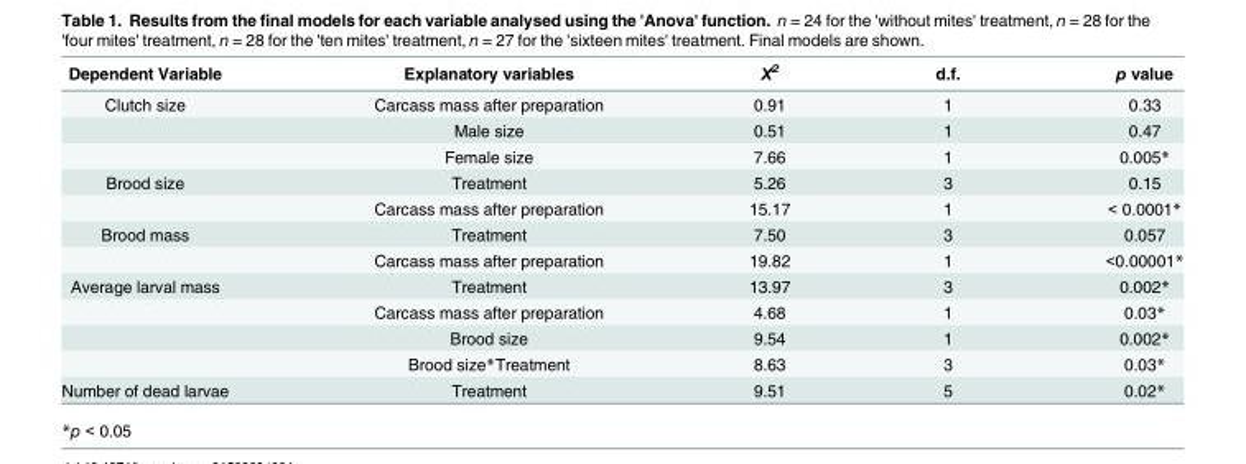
<table><thead><tr><td>Dependent Variable</td><td>Explanatory variables</td><td>Χ<sup>2</sup></td><td>d.f.</td><td>p value</td></tr></thead><tbody><tr><td rowspan="3">Clutch size</td><td>Carcass mass after preparation</td><td>0.91</td><td>1</td><td>0.33</td></tr><tr><td>Male size</td><td>0.51</td><td>1</td><td>0.47</td></tr><tr><td>Female size</td><td>7.66</td><td>1</td><td>0.005*</td></tr><tr><td rowspan="2">Brood size</td><td>Treatment</td><td>5.26</td><td>3</td><td>0.15</td></tr><tr><td>Carcass mass after preparation</td><td>15.17</td><td>1</td><td>&lt; 0.0001*</td></tr><tr><td rowspan="2">Brood mass</td><td>Treatment</td><td>7.50</td><td>3</td><td>0.057</td></tr><tr><td>Carcass mass after preparation</td><td>19.82</td><td>1</td><td>&lt;0.00001*</td></tr><tr><td rowspan="4">Average larval mass</td><td>Treatment</td><td>13.97</td><td>3</td><td>0.002*</td></tr><tr><td>Carcass mass after preparation</td><td>4.68</td><td>1</td><td>0.03*</td></tr><tr><td>Brood size</td><td>9.54</td><td>1</td><td>0.002*</td></tr><tr><td>Brood size*Treatment</td><td>8.63</td><td>3</td><td>0.03*</td></tr><tr><td>Number of dead larvae</td><td>Treatment</td><td>9.51</td><td>5</td><td>0.02*</td></tr></tbody></table>